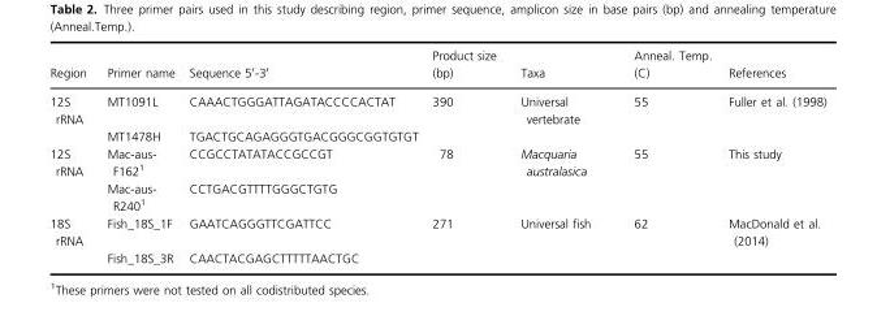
<table><thead><tr><td>Region</td><td>Primer name</td><td>Sequence 5′-3′</td><td>Product size (bp)</td><td>Taxa</td><td>Anneal. Temp. (C)</td><td>References</td></tr></thead><tbody><tr><td rowspan="2">12S rRNA</td><td>MT1091L</td><td>CAAACTGGGATTAGATACCCCACTAT</td><td>390</td><td>Universal vertebrate</td><td>55</td><td>Fuller et al. (1998)</td></tr><tr><td>MT1478H</td><td>TGACTGCAGAGGGTGACGGGCGGTGTGT</td><td></td><td></td><td></td><td></td></tr><tr><td rowspan="2">12S rRNA</td><td>Mac-aus- F1621</td><td>CCGCCTATATACCGCCGT</td><td>78</td><td>Macquaria australasica</td><td>55</td><td>This study</td></tr><tr><td>Mac-aus- R2401</td><td>CCTGACGTTTTGGGCTGTG</td><td></td><td></td><td></td><td></td></tr><tr><td rowspan="2">18S rRNA</td><td>Fish_18S_1F</td><td>GAATCAGGGTTCGATTCC</td><td>271</td><td>Universal fish</td><td>62</td><td>MacDonald et al. (2014)</td></tr><tr><td>Fish_18S_3R</td><td>CAACTACGAGCTTTTTAACTGC</td><td></td><td></td><td></td><td></td></tr></tbody></table>